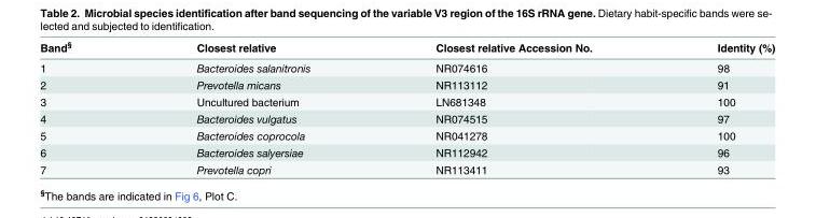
<table><thead><tr><td>Band<sup>§</sup></td><td>Closest relative</td><td>Closest relative Accession No.</td><td>Identity (%)</td></tr></thead><tbody><tr><td>1</td><td>Bacteroides salanitronis</td><td>NR074616</td><td>98</td></tr><tr><td>2</td><td>Prevotella micans</td><td>NR113112</td><td>91</td></tr><tr><td>3</td><td>Uncultured bacterium</td><td>LN681348</td><td>100</td></tr><tr><td>4</td><td>Bacteroides vulgatus</td><td>NR074515</td><td>97</td></tr><tr><td>5</td><td>Bacteroides coprocola</td><td>NR041278</td><td>100</td></tr><tr><td>6</td><td>Bacteroides salyersiae</td><td>NR112942</td><td>96</td></tr><tr><td>7</td><td>Prevotella copri</td><td>NR113411</td><td>93</td></tr></tbody></table>